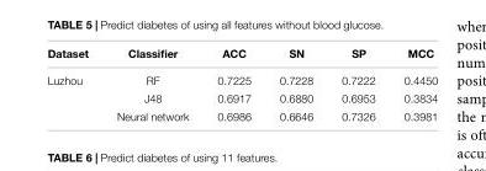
<table><thead><tr><td>Dataset</td><td>Classifier</td><td>ACC</td><td>SN</td><td>SP</td><td>MCC</td></tr></thead><tbody><tr><td rowspan="3">Luzhou</td><td>RF</td><td>0.7225</td><td>0.7228</td><td>0.7222</td><td>0.4450</td></tr><tr><td>J48</td><td>0.6917</td><td>0.6880</td><td>0.6953</td><td>0.3834</td></tr><tr><td>Neural network</td><td>0.6986</td><td>0.6646</td><td>0.7326</td><td>0.3981</td></tr></tbody></table>